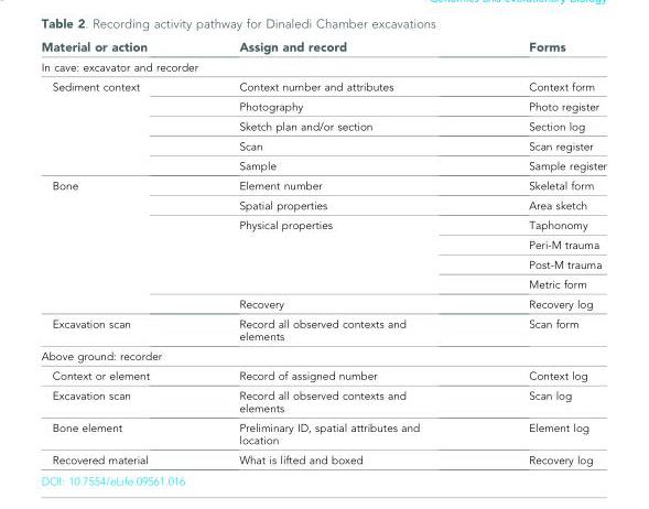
<table><thead><tr><td>Material or action</td><td>Assign and record</td><td>Forms</td></tr></thead><tbody><tr><td colspan="3">In cave: excavator and recorder</td></tr><tr><td rowspan="5">Sediment context</td><td>Context number and attributes</td><td>Context form</td></tr><tr><td>Photography</td><td>Photo register</td></tr><tr><td>Sketch plan and/or section</td><td>Section log</td></tr><tr><td>Scan</td><td>Scan register</td></tr><tr><td>Sample</td><td>Sample register</td></tr><tr><td rowspan="7">Bone</td><td>Element number</td><td>Skeletal form</td></tr><tr><td>Spatial properties</td><td>Area sketch</td></tr><tr><td rowspan="4">Physical properties</td><td>Taphonomy</td></tr><tr><td>Peri-M trauma</td></tr><tr><td>Post-M trauma</td></tr><tr><td>Metric form</td></tr><tr><td>Recovery</td><td>Recovery log</td></tr><tr><td>Excavation scan</td><td>Record all observed contexts and elements</td><td>Scan form</td></tr><tr><td colspan="3">Above ground: recorder</td></tr><tr><td>Context or element</td><td>Record of assigned number</td><td>Context log</td></tr><tr><td>Excavation scan</td><td>Record all observed contexts and elements</td><td>Scan log</td></tr><tr><td>Bone element</td><td>Preliminary ID, spatial attributes and location</td><td>Element log</td></tr><tr><td>Recovered material</td><td>What is lifted and boxed</td><td>Recovery log</td></tr></tbody></table>